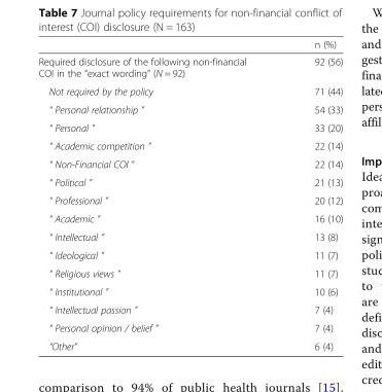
<table><thead><tr><td></td><td>n (%)</td></tr></thead><tbody><tr><td>Required disclosure of the following non-financial COI in the “exact wording” (N = 92)</td><td>92 (56)</td></tr><tr><td>Not required by the policy</td><td>71 (44)</td></tr><tr><td>“ Personal relationship ”</td><td>54 (33)</td></tr><tr><td>“ Personal ”</td><td>33 (20)</td></tr><tr><td>“ Academic competition ”</td><td>22 (14)</td></tr><tr><td>“ Non-Financial COI ”</td><td>22 (14)</td></tr><tr><td>“ Political ”</td><td>21 (13)</td></tr><tr><td>“ Professional ”</td><td>20 (12)</td></tr><tr><td>“ Academic ”</td><td>16 (10)</td></tr><tr><td>“ Intellectual ”</td><td>13 (8)</td></tr><tr><td>“ Ideological ”</td><td>11 (7)</td></tr><tr><td>“ Religious views ”</td><td>11 (7)</td></tr><tr><td>“ Institutional ”</td><td>10 (6)</td></tr><tr><td>“ Intellectual passion ”</td><td>7 (4)</td></tr><tr><td>“ Personal opinion / belief ”</td><td>7 (4)</td></tr><tr><td>“Other”</td><td>6 (4)</td></tr></tbody></table>